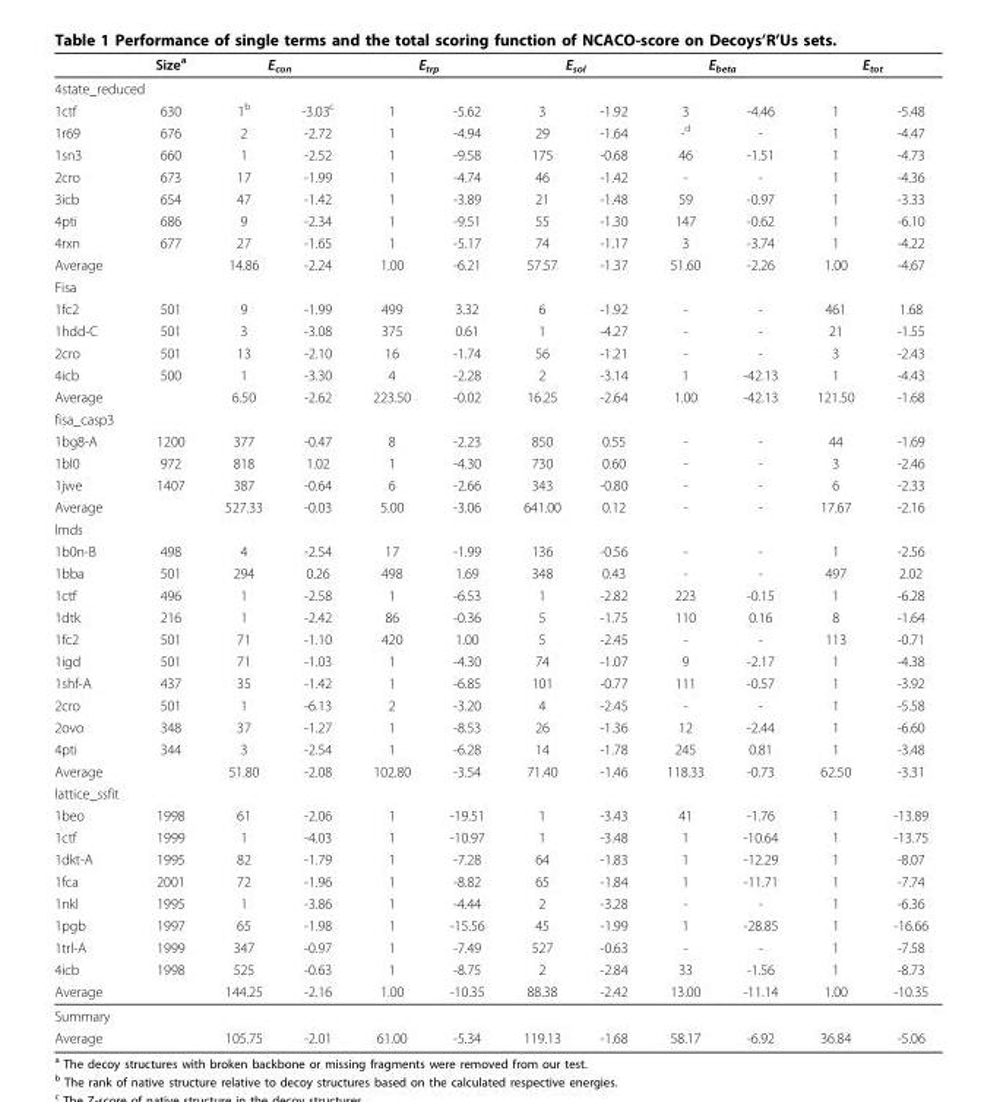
<table><thead><tr><td></td><td>Size<sup>a</sup></td><td colspan="2">E<sub>con</sub></td><td colspan="2">E<sub>trp</sub></td><td colspan="2">E<sub>sol</sub></td><td colspan="2">E<sub>beta</sub></td><td colspan="2">E<sub>tot</sub></td></tr><tr><td colspan="12">4state_reduced</td></tr><tr><td>1ctf</td><td>630</td><td>1<sup>b</sup></td><td>-3.03<sup>c</sup></td><td>1</td><td>-5.62</td><td>3</td><td>-1.92</td><td>3</td><td>-4.46</td><td>1</td><td>-5.48</td></tr></thead><tbody><tr><td>1r69</td><td>676</td><td>2</td><td>-2.72</td><td>1</td><td>-4.94</td><td>29</td><td>-1.64</td><td>-<sup>d</sup></td><td>-</td><td>1</td><td>-4.47</td></tr><tr><td>1sn3</td><td>660</td><td>1</td><td>-2.52</td><td>1</td><td>-9.58</td><td>175</td><td>-0.68</td><td>46</td><td>-1.51</td><td>1</td><td>-4.73</td></tr><tr><td>2cro</td><td>673</td><td>17</td><td>-1.99</td><td>1</td><td>-4.74</td><td>46</td><td>-1.42</td><td>-</td><td>-</td><td>1</td><td>-4.36</td></tr><tr><td>3icb</td><td>654</td><td>47</td><td>-1.42</td><td>1</td><td>-3.89</td><td>21</td><td>-1.48</td><td>59</td><td>-0.97</td><td>1</td><td>-3.33</td></tr><tr><td>4pti</td><td>686</td><td>9</td><td>-2.34</td><td>1</td><td>-9.51</td><td>55</td><td>-1.30</td><td>147</td><td>-0.62</td><td>1</td><td>-6.10</td></tr><tr><td>4rxn</td><td>677</td><td>27</td><td>-1.65</td><td>1</td><td>-5.17</td><td>74</td><td>-1.17</td><td>3</td><td>-3.74</td><td>1</td><td>-4.22</td></tr><tr><td>Average</td><td></td><td>14.86</td><td>-2.24</td><td>1.00</td><td>-6.21</td><td>57.57</td><td>-1.37</td><td>51.60</td><td>-2.26</td><td>1.00</td><td>-4.67</td></tr><tr><td colspan="12">Fisa</td></tr><tr><td>1fc2</td><td>501</td><td>9</td><td>-1.99</td><td>499</td><td>3.32</td><td>6</td><td>-1.92</td><td>-</td><td>-</td><td>461</td><td>1.68</td></tr><tr><td>1hdd-C</td><td>501</td><td>3</td><td>-3.08</td><td>375</td><td>0.61</td><td>1</td><td>-4.27</td><td>-</td><td>-</td><td>21</td><td>-1.55</td></tr><tr><td>2cro</td><td>501</td><td>13</td><td>-2.10</td><td>16</td><td>-1.74</td><td>56</td><td>-1.21</td><td>-</td><td>-</td><td>3</td><td>-2.43</td></tr><tr><td>4icb</td><td>500</td><td>1</td><td>-3.30</td><td>4</td><td>-2.28</td><td>2</td><td>-3.14</td><td>1</td><td>-42.13</td><td>1</td><td>-4.43</td></tr><tr><td>Average</td><td></td><td>6.50</td><td>-2.62</td><td>223.50</td><td>-0.02</td><td>16.25</td><td>-2.64</td><td>1.00</td><td>-42.13</td><td>121.50</td><td>-1.68</td></tr><tr><td colspan="12">fisa_casp3</td></tr><tr><td>1bg8-A</td><td>1200</td><td>377</td><td>-0.47</td><td>8</td><td>-2.23</td><td>850</td><td>0.55</td><td>-</td><td>-</td><td>44</td><td>-1.69</td></tr><tr><td>1bl0</td><td>972</td><td>818</td><td>1.02</td><td>1</td><td>-4.30</td><td>730</td><td>0.60</td><td>-</td><td>-</td><td>3</td><td>-2.46</td></tr><tr><td>1jwe</td><td>1407</td><td>387</td><td>-0.64</td><td>6</td><td>-2.66</td><td>343</td><td>-0.80</td><td>-</td><td>-</td><td>6</td><td>-2.33</td></tr><tr><td>Average</td><td></td><td>527.33</td><td>-0.03</td><td>5.00</td><td>-3.06</td><td>641.00</td><td>0.12</td><td>-</td><td>-</td><td>17.67</td><td>-2.16</td></tr><tr><td colspan="12">lmds</td></tr><tr><td>1b0n-B</td><td>498</td><td>4</td><td>-2.54</td><td>17</td><td>-1.99</td><td>136</td><td>-0.56</td><td>-</td><td>-</td><td>1</td><td>-2.56</td></tr><tr><td>1bba</td><td>501</td><td>294</td><td>0.26</td><td>498</td><td>1.69</td><td>348</td><td>0.43</td><td>-</td><td>-</td><td>497</td><td>2.02</td></tr><tr><td>1ctf</td><td>496</td><td>1</td><td>-2.58</td><td>1</td><td>-6.53</td><td>1</td><td>-2.82</td><td>223</td><td>-0.15</td><td>1</td><td>-6.28</td></tr><tr><td>1dtk</td><td>216</td><td>1</td><td>-2.42</td><td>86</td><td>-0.36</td><td>5</td><td>-1.75</td><td>110</td><td>0.16</td><td>8</td><td>-1.64</td></tr><tr><td>1fc2</td><td>501</td><td>71</td><td>-1.10</td><td>420</td><td>1.00</td><td>5</td><td>-2.45</td><td>-</td><td>-</td><td>113</td><td>-0.71</td></tr><tr><td>1igd</td><td>501</td><td>71</td><td>-1.03</td><td>1</td><td>-4.30</td><td>74</td><td>-1.07</td><td>9</td><td>-2.17</td><td>1</td><td>-4.38</td></tr><tr><td>1shf-A</td><td>437</td><td>35</td><td>-1.42</td><td>1</td><td>-6.85</td><td>101</td><td>-0.77</td><td>111</td><td>-0.57</td><td>1</td><td>-3.92</td></tr><tr><td>2cro</td><td>501</td><td>1</td><td>-6.13</td><td>2</td><td>-3.20</td><td>4</td><td>-2.45</td><td>-</td><td>-</td><td>1</td><td>-5.58</td></tr><tr><td>2ovo</td><td>348</td><td>37</td><td>-1.27</td><td>1</td><td>-8.53</td><td>26</td><td>-1.36</td><td>12</td><td>-2.44</td><td>1</td><td>-6.60</td></tr><tr><td>4pti</td><td>344</td><td>3</td><td>-2.54</td><td>1</td><td>-6.28</td><td>14</td><td>-1.78</td><td>245</td><td>0.81</td><td>1</td><td>-3.48</td></tr><tr><td>Average</td><td></td><td>51.80</td><td>-2.08</td><td>102.80</td><td>-3.54</td><td>71.40</td><td>-1.46</td><td>118.33</td><td>-0.73</td><td>62.50</td><td>-3.31</td></tr><tr><td colspan="12">lattice_ssfit</td></tr><tr><td>1beo</td><td>1998</td><td>61</td><td>-2.06</td><td>1</td><td>-19.51</td><td>1</td><td>-3.43</td><td>41</td><td>-1.76</td><td>1</td><td>-13.89</td></tr><tr><td>1ctf</td><td>1999</td><td>1</td><td>-4.03</td><td>1</td><td>-10.97</td><td>1</td><td>-3.48</td><td>1</td><td>-10.64</td><td>1</td><td>-13.75</td></tr><tr><td>1dkt-A</td><td>1995</td><td>82</td><td>-1.79</td><td>1</td><td>-7.28</td><td>64</td><td>-1.83</td><td>1</td><td>-12.29</td><td>1</td><td>-8.07</td></tr><tr><td>1fca</td><td>2001</td><td>72</td><td>-1.96</td><td>1</td><td>-8.82</td><td>65</td><td>-1.84</td><td>1</td><td>-11.71</td><td>1</td><td>-7.74</td></tr><tr><td>1nkl</td><td>1995</td><td>1</td><td>-3.86</td><td>1</td><td>-4.44</td><td>2</td><td>-3.28</td><td>-</td><td>-</td><td>1</td><td>-6.36</td></tr><tr><td>1pgb</td><td>1997</td><td>65</td><td>-1.98</td><td>1</td><td>-15.56</td><td>45</td><td>-1.99</td><td>1</td><td>-28.85</td><td>1</td><td>-16.66</td></tr><tr><td>1trl-A</td><td>1999</td><td>347</td><td>-0.97</td><td>1</td><td>-7.49</td><td>527</td><td>-0.63</td><td>-</td><td>-</td><td>1</td><td>-7.58</td></tr><tr><td>4icb</td><td>1998</td><td>525</td><td>-0.63</td><td>1</td><td>-8.75</td><td>2</td><td>-2.84</td><td>33</td><td>-1.56</td><td>1</td><td>-8.73</td></tr><tr><td>Average</td><td></td><td>144.25</td><td>-2.16</td><td>1.00</td><td>-10.35</td><td>88.38</td><td>-2.42</td><td>13.00</td><td>-11.14</td><td>1.00</td><td>-10.35</td></tr><tr><td colspan="12">Summary</td></tr><tr><td>Average</td><td></td><td>105.75</td><td>-2.01</td><td>61.00</td><td>-5.34</td><td>119.13</td><td>-1.68</td><td>58.17</td><td>-6.92</td><td>36.84</td><td>-5.06</td></tr></tbody></table>